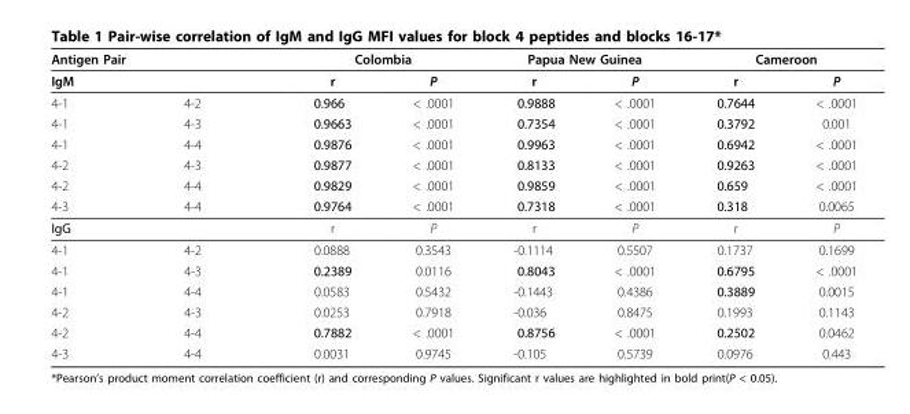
<table><thead><tr><td colspan="2">Antigen Pair</td><td colspan="2">Colombia</td><td colspan="2">Papua New Guinea</td><td colspan="2">Cameroon</td></tr><tr><td>IgM</td><td></td><td>r</td><td>P</td><td>r</td><td>P</td><td>r</td><td>P</td></tr></thead><tbody><tr><td>4-1</td><td>4-2</td><td>0.966</td><td>&lt; .0001</td><td>0.9888</td><td>&lt; .0001</td><td>0.7644</td><td>&lt; .0001</td></tr><tr><td>4-1</td><td>4-3</td><td>0.9663</td><td>&lt; .0001</td><td>0.7354</td><td>&lt; .0001</td><td>0.3792</td><td>0.001</td></tr><tr><td>4-1</td><td>4-4</td><td>0.9876</td><td>&lt; .0001</td><td>0.9963</td><td>&lt; .0001</td><td>0.6942</td><td>&lt; .0001</td></tr><tr><td>4-2</td><td>4-3</td><td>0.9877</td><td>&lt; .0001</td><td>0.8133</td><td>&lt; .0001</td><td>0.9263</td><td>&lt; .0001</td></tr><tr><td>4-2</td><td>4-4</td><td>0.9829</td><td>&lt; .0001</td><td>0.9859</td><td>&lt; .0001</td><td>0.659</td><td>&lt; .0001</td></tr><tr><td>4-3</td><td>4-4</td><td>0.9764</td><td>&lt; .0001</td><td>0.7318</td><td>&lt; .0001</td><td>0.318</td><td>0.0065</td></tr><tr><td>IgG</td><td></td><td>r</td><td>P</td><td>r</td><td>P</td><td>r</td><td>P</td></tr><tr><td>4-1</td><td>4-2</td><td>0.0888</td><td>0.3543</td><td>-0.1114</td><td>0.5507</td><td>0.1737</td><td>0.1699</td></tr><tr><td>4-1</td><td>4-3</td><td>0.2389</td><td>0.0116</td><td>0.8043</td><td>&lt; .0001</td><td>0.6795</td><td>&lt; .0001</td></tr><tr><td>4-1</td><td>4-4</td><td>0.0583</td><td>0.5432</td><td>-0.1443</td><td>0.4386</td><td>0.3889</td><td>0.0015</td></tr><tr><td>4-2</td><td>4-3</td><td>0.0253</td><td>0.7918</td><td>-0.036</td><td>0.8475</td><td>0.1993</td><td>0.1143</td></tr><tr><td>4-2</td><td>4-4</td><td>0.7882</td><td>&lt; .0001</td><td>0.8756</td><td>&lt; .0001</td><td>0.2502</td><td>0.0462</td></tr><tr><td>4-3</td><td>4-4</td><td>0.0031</td><td>0.9745</td><td>-0.105</td><td>0.5739</td><td>0.0976</td><td>0.443</td></tr></tbody></table>